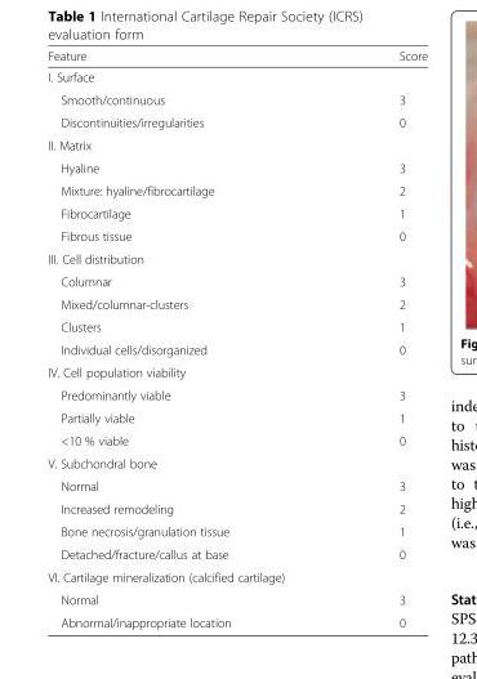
<table><thead><tr><td>Feature</td><td>Score</td></tr></thead><tbody><tr><td colspan="2">I. Surface</td></tr><tr><td>Smooth/continuous</td><td>3</td></tr><tr><td>Discontinuities/irregularities</td><td>0</td></tr><tr><td colspan="2">II. Matrix</td></tr><tr><td>Hyaline</td><td>3</td></tr><tr><td>Mixture: hyaline/fibrocartilage</td><td>2</td></tr><tr><td>Fibrocartilage</td><td>1</td></tr><tr><td>Fibrous tissue</td><td>0</td></tr><tr><td colspan="2">III. Cell distribution</td></tr><tr><td>Columnar</td><td>3</td></tr><tr><td>Mixed/columnar-clusters</td><td>2</td></tr><tr><td>Clusters</td><td>1</td></tr><tr><td>Individual cells/disorganized</td><td>0</td></tr><tr><td colspan="2">IV. Cell population viability</td></tr><tr><td>Predominantly viable</td><td>3</td></tr><tr><td>Partially viable</td><td>1</td></tr><tr><td>&lt;10 % viable</td><td>0</td></tr><tr><td colspan="2">V. Subchondral bone</td></tr><tr><td>Normal</td><td>3</td></tr><tr><td>Increased remodeling</td><td>2</td></tr><tr><td>Bone necrosis/granulation tissue</td><td>1</td></tr><tr><td>Detached/fracture/callus at base</td><td>0</td></tr><tr><td colspan="2">VI. Cartilage mineralization (calcified cartilage)</td></tr><tr><td>Normal</td><td>3</td></tr><tr><td>Abnormal/inappropriate location</td><td>0</td></tr></tbody></table>